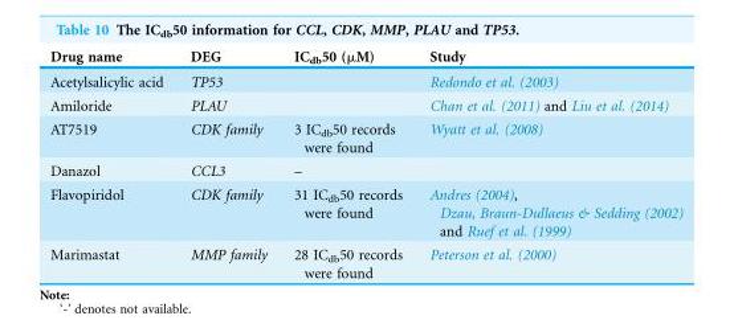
<table><thead><tr><td>Drug name</td><td>DEG</td><td>IC<sub>db</sub>50 (μM)</td><td>Study</td></tr></thead><tbody><tr><td>Acetylsalicylic acid</td><td>TP53</td><td></td><td>Redondo et al. (2003)</td></tr><tr><td>Amiloride</td><td>PLAU</td><td></td><td>Chan et al. (2011) and Liu et al. (2014)</td></tr><tr><td>AT7519</td><td>CDK family</td><td>3 IC<sub>db</sub>50 records were found</td><td>Wyatt et al. (2008)</td></tr><tr><td>Danazol</td><td>CCL3</td><td>–</td><td></td></tr><tr><td>Flavopiridol</td><td>CDK family</td><td>31 IC<sub>db</sub>50 records were found</td><td>Andres (2004), Dzau, Braun-Dullaeus &amp; Sedding (2002) and Ruef et al. (1999)</td></tr><tr><td>Marimastat</td><td>MMP family</td><td>28 IC<sub>db</sub>50 records were found</td><td>Peterson et al. (2000)</td></tr></tbody></table>